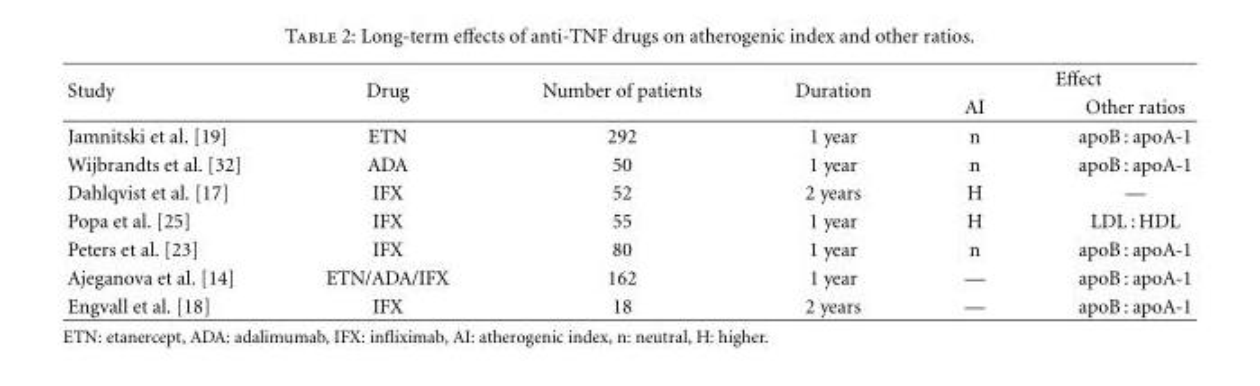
<table><thead><tr><td rowspan="2">Study</td><td rowspan="2">Drug</td><td rowspan="2">Number of patients</td><td rowspan="2">Duration</td><td colspan="2">Effect</td></tr><tr><td>AI</td><td>Other ratios</td></tr></thead><tbody><tr><td>Jamnitski et al. [19]</td><td>ETN</td><td>292</td><td>1 year</td><td>n</td><td>apoB : apoA-1</td></tr><tr><td>Wijbrandts et al. [32]</td><td>ADA</td><td>50</td><td>1 year</td><td>n</td><td>apoB : apoA-1</td></tr><tr><td>Dahlqvist et al. [17]</td><td>IFX</td><td>52</td><td>2 years</td><td>H</td><td>—</td></tr><tr><td>Popa et al. [25]</td><td>IFX</td><td>55</td><td>1 year</td><td>H</td><td>LDL : HDL</td></tr><tr><td>Peters et al. [23]</td><td>IFX</td><td>80</td><td>1 year</td><td>n</td><td>apoB : apoA-1</td></tr><tr><td>Ajeganova et al. [14]</td><td>ETN/ADA/IFX</td><td>162</td><td>1 year</td><td>—</td><td>apoB : apoA-1</td></tr><tr><td>Engvall et al. [18]</td><td>IFX</td><td>18</td><td>2 years</td><td>—</td><td>apoB : apoA-1</td></tr></tbody></table>